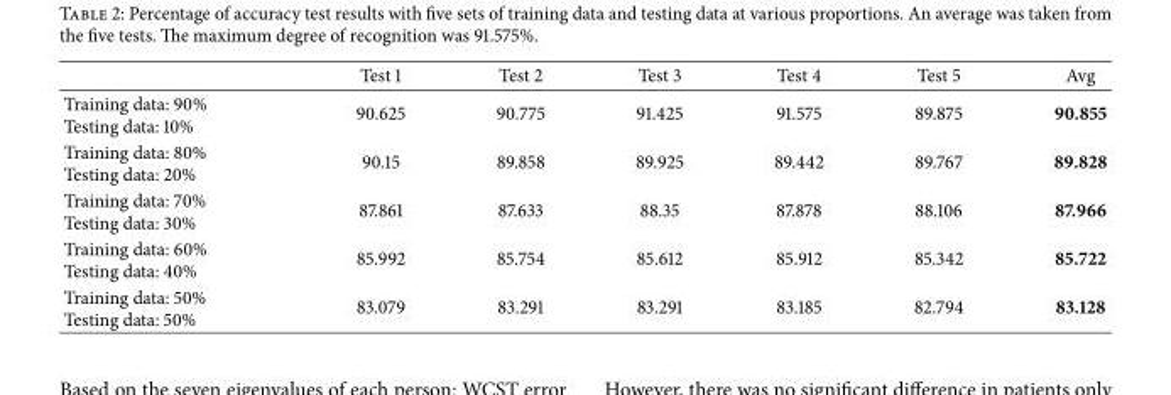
<table><thead><tr><td></td><td>Test 1</td><td>Test 2</td><td>Test 3</td><td>Test 4</td><td>Test 5</td><td>Avg</td></tr></thead><tbody><tr><td>Training data: 90% Testing data: 10%</td><td>90.625</td><td>90.775</td><td>91.425</td><td>91.575</td><td>89.875</td><td>90.855</td></tr><tr><td>Training data: 80% Testing data: 20%</td><td>90.15</td><td>89.858</td><td>89.925</td><td>89.442</td><td>89.767</td><td>89.828</td></tr><tr><td>Training data: 70% Testing data: 30%</td><td>87.861</td><td>87.633</td><td>88.35</td><td>87.878</td><td>88.106</td><td>87.966</td></tr><tr><td>Training data: 60% Testing data: 40%</td><td>85.992</td><td>85.754</td><td>85.612</td><td>85.912</td><td>85.342</td><td>85.722</td></tr><tr><td>Training data: 50% Testing data: 50%</td><td>83.079</td><td>83.291</td><td>83.291</td><td>83.185</td><td>82.794</td><td>83.128</td></tr></tbody></table>